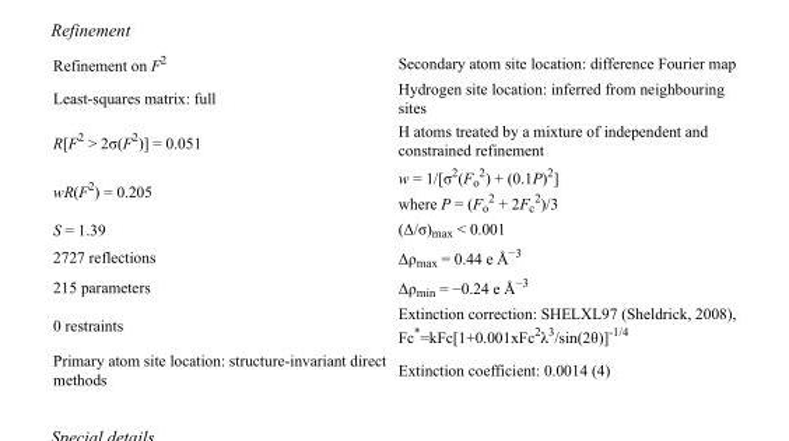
<table><tbody><tr><td>Refinement on F<sup>2</sup></td><td>Secondary atom site location: difference Fourier map</td></tr><tr><td>Least-squares matrix: full</td><td>Hydrogen site location: inferred from neighbouring sites</td></tr><tr><td>R[F<sup>2</sup> &gt; 2σ(F<sup>2</sup>)] = 0.051</td><td>H atoms treated by a mixture of independent and constrained refinement</td></tr><tr><td>wR(F<sup>2</sup>) = 0.205</td><td>w = 1/[σ<sup>2</sup>(F<sub>o</sub> <sup>2</sup>) + (0.1P)<sup>2</sup>] where P = (F<sub>o</sub> <sup>2</sup> + 2F<sub>c</sub> <sup>2</sup>)/3</td></tr><tr><td>S = 1.39</td><td>(Δ/σ)<sub>max</sub> &lt; 0.001</td></tr><tr><td>2727 reflections</td><td>Δρ<sub>max</sub> = 0.44 e Å<sup>−3</sup></td></tr><tr><td>215 parameters</td><td>Δρ<sub>min</sub> = −0.24 e Å<sup>−3</sup></td></tr><tr><td>0 restraints</td><td>Extinction correction: SHELXL97 (Sheldrick, 2008), Fc*=kFc[1+0.001xFc<sup>2</sup>λ<sup>3</sup>/sin(2θ)]<sup>-1/4</sup></td></tr><tr><td>Primary atom site location: structure-invariant direct methods</td><td>Extinction coefficient: 0.0014 (4)</td></tr></tbody></table>